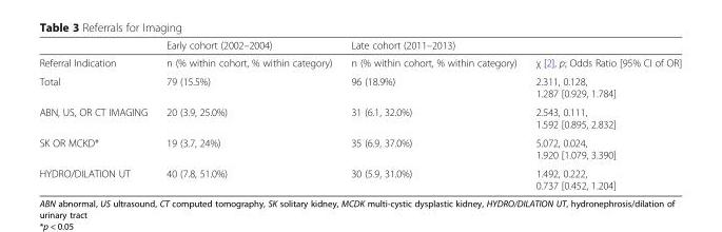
<table><thead><tr><td></td><td>Early cohort (2002–2004)</td><td>Late cohort (2011–2013)</td><td></td></tr></thead><tbody><tr><td>Referral Indication</td><td>n (% within cohort, % within category)</td><td>n (% within cohort, % within category)</td><td>χ [2], p; Odds Ratio [95% CI of OR]</td></tr><tr><td>Total</td><td>79 (15.5%)</td><td>96 (18.9%)</td><td>2.311, 0.128, 1.287 [0.929, 1.784]</td></tr><tr><td>ABN, US, OR CT IMAGING</td><td>20 (3.9, 25.0%)</td><td>31 (6.1, 32.0%)</td><td>2.543, 0.111, 1.592 [0.895, 2.832]</td></tr><tr><td>SK OR MCKD*</td><td>19 (3.7, 24%)</td><td>35 (6.9, 37.0%)</td><td>5.072, 0.024, 1.920 [1.079, 3.390]</td></tr><tr><td>HYDRO/DILATION UT</td><td>40 (7.8, 51.0%)</td><td>30 (5.9, 31.0%)</td><td>1.492, 0.222, 0.737 [0.452, 1.204]</td></tr></tbody></table>